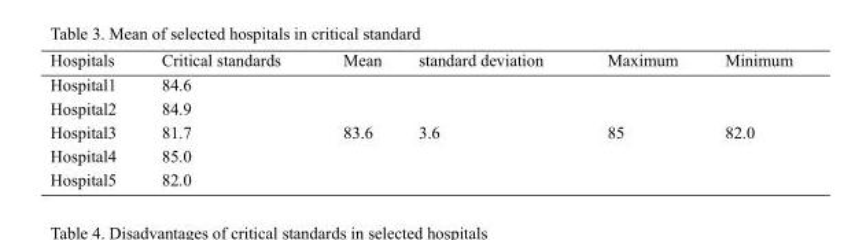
<table><thead><tr><td>Hospitals</td><td>Critical standards</td><td>Mean</td><td>standard deviation</td><td>Maximum</td><td>Minimum</td></tr></thead><tbody><tr><td>Hospital1</td><td>84.6</td><td rowspan="5">83.6</td><td rowspan="5">3.6</td><td rowspan="5">85</td><td rowspan="5">82.0</td></tr><tr><td>Hospital2</td><td>84.9</td></tr><tr><td>Hospital3</td><td>81.7</td></tr><tr><td>Hospital4</td><td>85.0</td></tr><tr><td>Hospital5</td><td>82.0</td></tr></tbody></table>